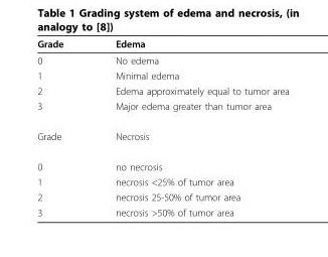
<table><thead><tr><td>Grade</td><td>Edema</td></tr></thead><tbody><tr><td>0</td><td>No edema</td></tr><tr><td>1</td><td>Minimal edema</td></tr><tr><td>2</td><td>Edema approximately equal to tumor area</td></tr><tr><td>3</td><td>Major edema greater than tumor area</td></tr><tr><td>Grade</td><td>Necrosis</td></tr><tr><td>0</td><td>no necrosis</td></tr><tr><td>1</td><td>necrosis &lt;25% of tumor area</td></tr><tr><td>2</td><td>necrosis 25-50% of tumor area</td></tr><tr><td>3</td><td>necrosis &gt;50% of tumor area</td></tr></tbody></table>